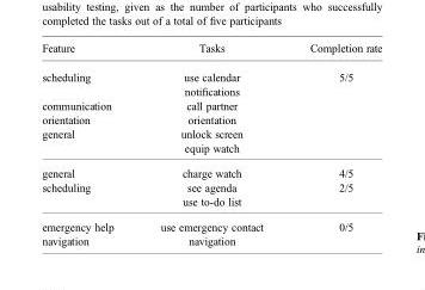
<table><thead><tr><td>Feature</td><td>Tasks</td><td>Completion rate</td></tr></thead><tbody><tr><td rowspan="2">scheduling</td><td>use calendar</td><td rowspan="6">5/5</td></tr><tr><td>notifications</td></tr><tr><td>communication</td><td>call partner</td></tr><tr><td>orientation</td><td>orientation</td></tr><tr><td rowspan="2">general</td><td>unlock screen</td></tr><tr><td>equip watch</td></tr><tr><td>general</td><td>charge watch</td><td>4/5</td></tr><tr><td rowspan="2">scheduling</td><td>see agenda</td><td>2/5</td></tr><tr><td>use to-do list</td><td></td></tr><tr><td>emergency help</td><td>use emergency contact</td><td>0/5</td></tr><tr><td>navigation</td><td>navigation</td><td></td></tr></tbody></table>